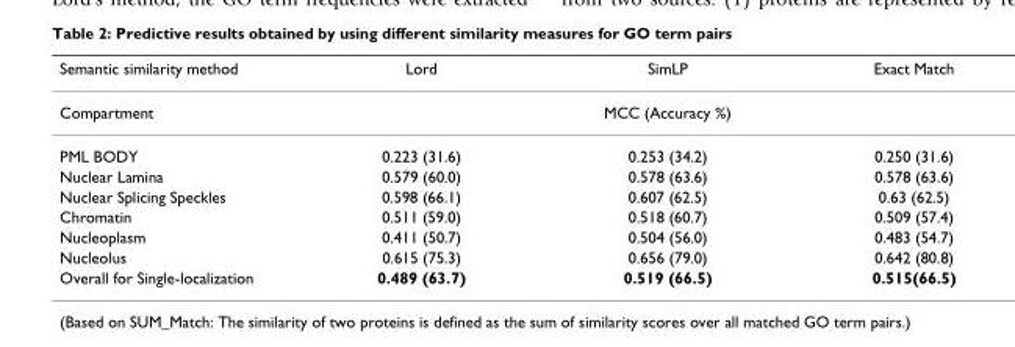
<table><thead><tr><td>Semantic similarity method</td><td>Lord</td><td>SimLP</td><td>Exact Match</td></tr></thead><tbody><tr><td>Compartment</td><td colspan="3">MCC (Accuracy %)</td></tr><tr><td>PML BODY</td><td>0.223 (31.6)</td><td>0.253 (34.2)</td><td>0.250 (31.6)</td></tr><tr><td>Nuclear Lamina</td><td>0.579 (60.0)</td><td>0.578 (63.6)</td><td>0.578 (63.6)</td></tr><tr><td>Nuclear Splicing Speckles</td><td>0.598 (66.1)</td><td>0.607 (62.5)</td><td>0.63 (62.5)</td></tr><tr><td>Chromatin</td><td>0.511 (59.0)</td><td>0.518 (60.7)</td><td>0.509 (57.4)</td></tr><tr><td>Nucleoplasm</td><td>0.411 (50.7)</td><td>0.504 (56.0)</td><td>0.483 (54.7)</td></tr><tr><td>Nucleolus</td><td>0.615 (75.3)</td><td>0.656 (79.0)</td><td>0.642 (80.8)</td></tr><tr><td>Overall for Single-localization</td><td>0.489 (63.7)</td><td>0.519 (66.5)</td><td>0.515(66.5)</td></tr></tbody></table>